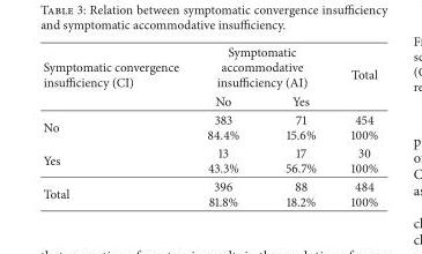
<table><thead><tr><td rowspan="2">Symptomatic convergence insufficiency (CI)</td><td colspan="2">Symptomatic accommodative insufficiency (AI)</td><td rowspan="2">Total</td></tr><tr><td>No</td><td>Yes</td></tr></thead><tbody><tr><td>No</td><td>383 84.4%</td><td>71 15.6%</td><td>454 100%</td></tr><tr><td>Yes</td><td>13 43.3%</td><td>17 56.7%</td><td>30 100%</td></tr><tr><td>Total</td><td>396 81.8%</td><td>88 18.2%</td><td>484 100%</td></tr></tbody></table>